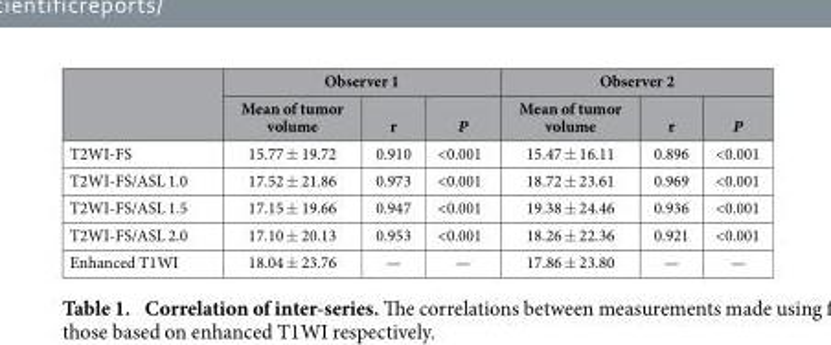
<table><thead><tr><td rowspan="2"></td><td colspan="3">Observer 1</td><td colspan="3">Observer 2</td></tr><tr><td>Mean of tumor volume</td><td>r</td><td>P</td><td>Mean of tumor volume</td><td>r</td><td>P</td></tr></thead><tbody><tr><td>T2WI-FS</td><td>15.77 ± 19.72</td><td>0.910</td><td>&lt;0.001</td><td>15.47 ± 16.11</td><td>0.896</td><td>&lt;0.001</td></tr><tr><td>T2WI-FS/ASL 1.0</td><td>17.52 ± 21.86</td><td>0.973</td><td>&lt;0.001</td><td>18.72 ± 23.61</td><td>0.969</td><td>&lt;0.001</td></tr><tr><td>T2WI-FS/ASL 1.5</td><td>17.15 ± 19.66</td><td>0.947</td><td>&lt;0.001</td><td>19.38 ± 24.46</td><td>0.936</td><td>&lt;0.001</td></tr><tr><td>T2WI-FS/ASL 2.0</td><td>17.10 ± 20.13</td><td>0.953</td><td>&lt;0.001</td><td>18.26 ± 22.36</td><td>0.921</td><td>&lt;0.001</td></tr><tr><td>Enhanced T1WI</td><td>18.04 ± 23.76</td><td>—</td><td>—</td><td>17.86 ± 23.80</td><td>—</td><td>—</td></tr></tbody></table>